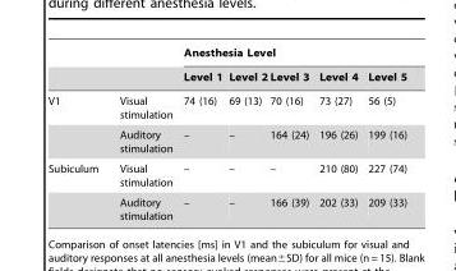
<table><thead><tr><td rowspan="2"></td><td rowspan="2"></td><td colspan="5">Anesthesia Level</td></tr><tr><td>Level 1</td><td>Level 2</td><td>Level 3</td><td>Level 4</td><td>Level 5</td></tr></thead><tbody><tr><td rowspan="2">V1</td><td>Visual stimulation</td><td>74 (16)</td><td>69 (13)</td><td>70 (16)</td><td>73 (27)</td><td>56 (5)</td></tr><tr><td>Auditory stimulation</td><td>–</td><td>–</td><td>164 (24)</td><td>196 (26)</td><td>199 (16)</td></tr><tr><td rowspan="2">Subiculum</td><td>Visual stimulation</td><td>–</td><td>–</td><td>–</td><td>210 (80)</td><td>227 (74)</td></tr><tr><td>Auditory stimulation</td><td>–</td><td>–</td><td>166 (39)</td><td>202 (33)</td><td>209 (33)</td></tr></tbody></table>